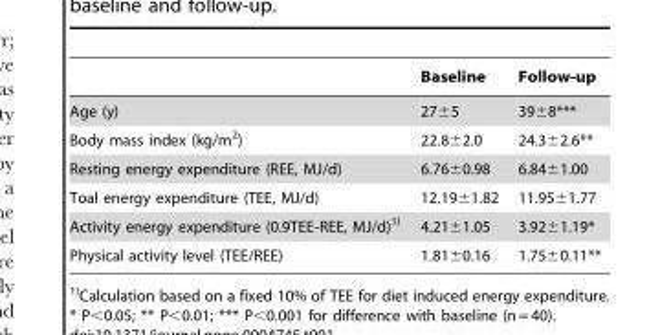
<table><thead><tr><td></td><td>Baseline</td><td>Follow-up</td></tr></thead><tbody><tr><td>Age (y)</td><td>27±5</td><td>39±8***</td></tr><tr><td>Body mass index (kg/m<sup>2</sup>)</td><td>22.8±2.0</td><td>24.3±2.6**</td></tr><tr><td>Resting energy expenditure (REE, MJ/d)</td><td>6.76±0.98</td><td>6.84±1.00</td></tr><tr><td>Toal energy expenditure (TEE, MJ/d)</td><td>12.19±1.82</td><td>11.95±1.77</td></tr><tr><td>Activity energy expenditure (0.9TEE-REE, MJ/d)1)</td><td>4.21±1.05</td><td>3.92±1.19*</td></tr><tr><td>Physical activity level (TEE/REE)</td><td>1.81±0.16</td><td>1.75±0.11**</td></tr></tbody></table>